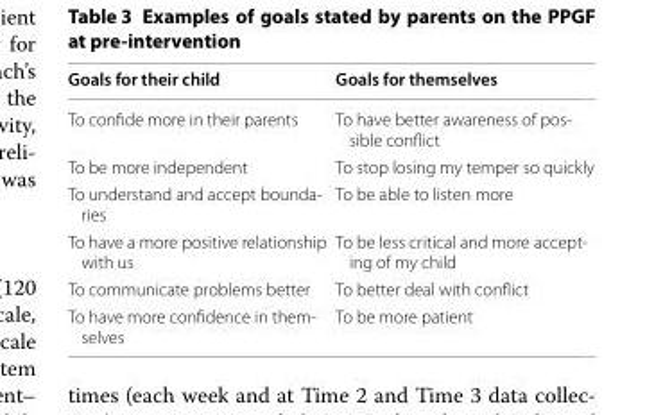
<table><thead><tr><td>Goals for their child</td><td>Goals for themselves</td></tr></thead><tbody><tr><td>To confide more in their parents</td><td>To have better awareness of pos- sible conflict</td></tr><tr><td>To be more independent</td><td>To stop losing my temper so quickly</td></tr><tr><td>To understand and accept bounda- ries</td><td>To be able to listen more</td></tr><tr><td>To have a more positive relationship with us</td><td>To be less critical and more accept- ing of my child</td></tr><tr><td>To communicate problems better</td><td>To better deal with conflict</td></tr><tr><td>To have more confidence in them- selves</td><td>To be more patient</td></tr></tbody></table>